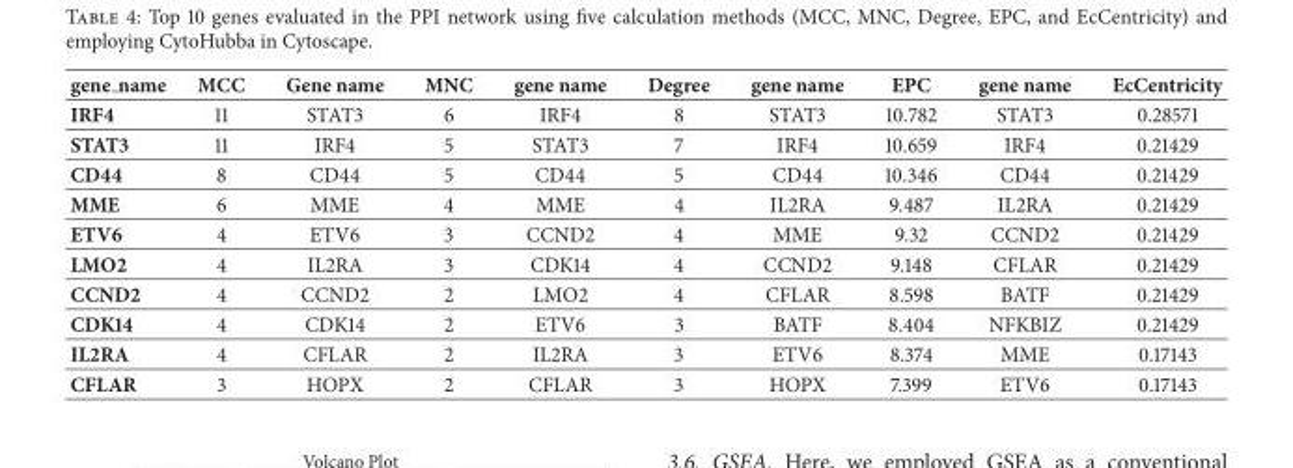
<table><thead><tr><td>gene name</td><td>MCC</td><td>Gene name</td><td>MNC</td><td>gene name</td><td>Degree</td><td>gene name</td><td>EPC</td><td>gene name</td><td>EcCentricity</td></tr></thead><tbody><tr><td>IRF4</td><td>11</td><td>STAT3</td><td>6</td><td>IRF4</td><td>8</td><td>STAT3</td><td>10.782</td><td>STAT3</td><td>0.28571</td></tr><tr><td>STAT3</td><td>11</td><td>IRF4</td><td>5</td><td>STAT3</td><td>7</td><td>IRF4</td><td>10.659</td><td>IRF4</td><td>0.21429</td></tr><tr><td>CD44</td><td>8</td><td>CD44</td><td>5</td><td>CD44</td><td>5</td><td>CD44</td><td>10.346</td><td>CD44</td><td>0.21429</td></tr><tr><td>MME</td><td>6</td><td>MME</td><td>4</td><td>MME</td><td>4</td><td>IL2RA</td><td>9.487</td><td>IL2RA</td><td>0.21429</td></tr><tr><td>ETV6</td><td>4</td><td>ETV6</td><td>3</td><td>CCND2</td><td>4</td><td>MME</td><td>9.32</td><td>CCND2</td><td>0.21429</td></tr><tr><td>LMO2</td><td>4</td><td>IL2RA</td><td>3</td><td>CDK14</td><td>4</td><td>CCND2</td><td>9.148</td><td>CFLAR</td><td>0.21429</td></tr><tr><td>CCND2</td><td>4</td><td>CCND2</td><td>2</td><td>LMO2</td><td>4</td><td>CFLAR</td><td>8.598</td><td>BATF</td><td>0.21429</td></tr><tr><td>CDK14</td><td>4</td><td>CDK14</td><td>2</td><td>ETV6</td><td>3</td><td>BATF</td><td>8.404</td><td>NFKBIZ</td><td>0.21429</td></tr><tr><td>IL2RA</td><td>4</td><td>CFLAR</td><td>2</td><td>IL2RA</td><td>3</td><td>ETV6</td><td>8.374</td><td>MME</td><td>0.17143</td></tr><tr><td>CFLAR</td><td>3</td><td>HOPX</td><td>2</td><td>CFLAR</td><td>3</td><td>HOPX</td><td>7.399</td><td>ETV6</td><td>0.17143</td></tr></tbody></table>